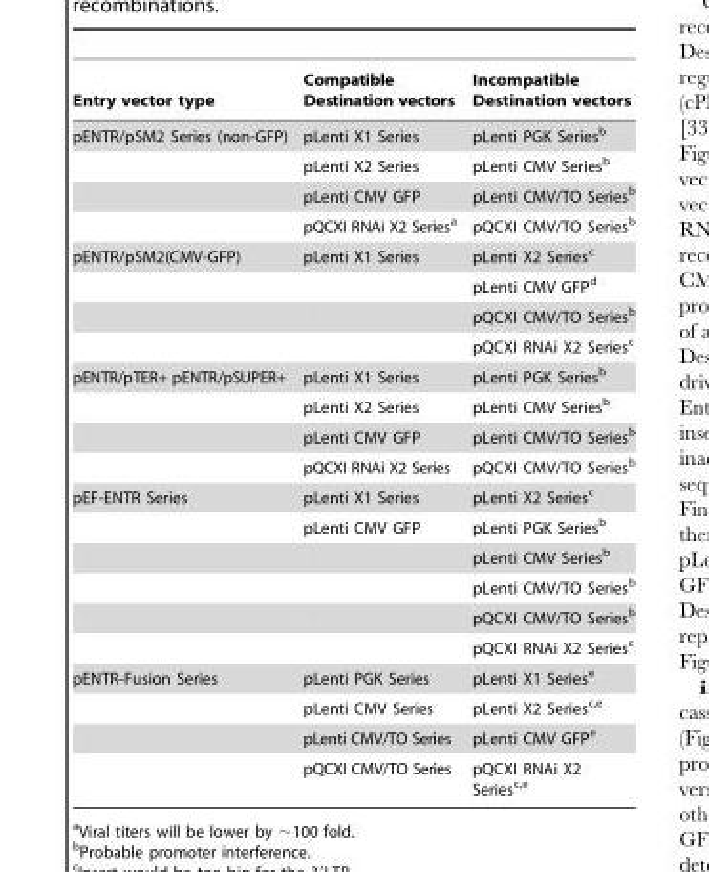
<table><thead><tr><td>Entry vector type</td><td>Compatible Destination vectors</td><td>Incompatible Destination vectors</td></tr></thead><tbody><tr><td rowspan="4">pENTR/pSM2 Series (non-GFP)</td><td>pLenti X1 Series</td><td>pLenti PGK Series<sup>b</sup></td></tr><tr><td>pLenti X2 Series</td><td>pLenti CMV Series<sup>b</sup></td></tr><tr><td>pLenti CMV GFP</td><td>pLenti CMV/TO Series<sup>b</sup></td></tr><tr><td>pQCXI RNAi X2 Series<sup>a</sup></td><td>pQCXI CMV/TO Series<sup>b</sup></td></tr><tr><td rowspan="4">pENTR/pSM2(CMV-GFP)</td><td>pLenti X1 Series</td><td>pLenti X2 Series<sup>c</sup></td></tr><tr><td></td><td>pLenti CMV GFP<sup>d</sup></td></tr><tr><td></td><td>pQCXI CMV/TO Series<sup>b</sup></td></tr><tr><td></td><td>pQCXI RNAi X2 Series<sup>c</sup></td></tr><tr><td rowspan="4">pENTR/pTER+ pENTR/pSUPER+</td><td>pLenti X1 Series</td><td>pLenti PGK Series<sup>b</sup></td></tr><tr><td>pLenti X2 Series</td><td>pLenti CMV Series<sup>b</sup></td></tr><tr><td>pLenti CMV GFP</td><td>pLenti CMV/TO Series<sup>b</sup></td></tr><tr><td>pQCXI RNAi X2 Series</td><td>pQCXI CMV/TO Series<sup>b</sup></td></tr><tr><td rowspan="6">pEF-ENTR Series</td><td>pLenti X1 Series</td><td>pLenti X2 Series<sup>c</sup></td></tr><tr><td>pLenti CMV GFP</td><td>pLenti PGK Series<sup>b</sup></td></tr><tr><td></td><td>pLenti CMV Series<sup>b</sup></td></tr><tr><td></td><td>pLenti CMV/TO Series<sup>b</sup></td></tr><tr><td></td><td>pQCXI CMV/TO Series<sup>b</sup></td></tr><tr><td></td><td>pQCXI RNAi X2 Series<sup>c</sup></td></tr><tr><td rowspan="4">pENTR-Fusion Series</td><td>pLenti PGK Series</td><td>pLenti X1 Series<sup>e</sup></td></tr><tr><td>pLenti CMV Series</td><td>pLenti X2 Seriesc,e</td></tr><tr><td>pLenti CMV/TO Series</td><td>pLenti CMV GFP<sup>e</sup></td></tr><tr><td>pQCXI CMV/TO Series</td><td>pQCXI RNAi X2 Seriesc,e</td></tr></tbody></table>